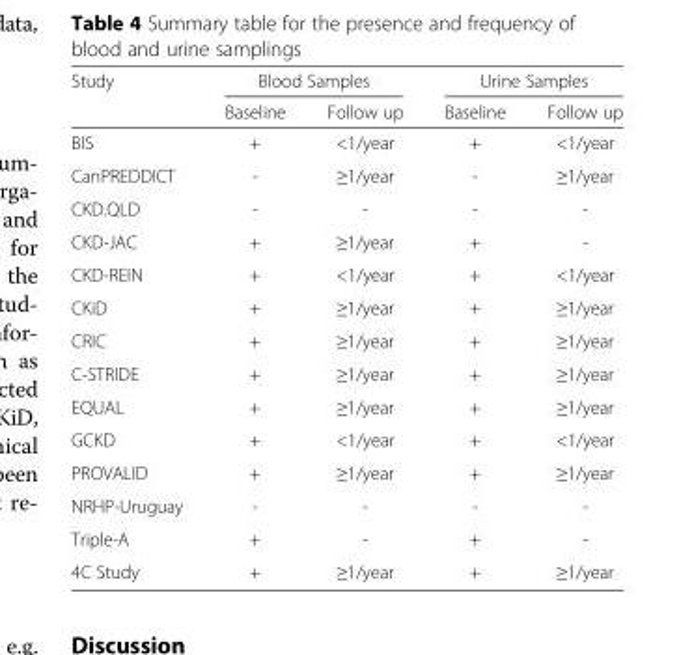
<table><thead><tr><td rowspan="2">Study</td><td colspan="2">Blood Samples</td><td colspan="2">Urine Samples</td></tr><tr><td>Baseline</td><td>Follow up</td><td>Baseline</td><td>Follow up</td></tr></thead><tbody><tr><td>BIS</td><td>+</td><td>&lt;1/year</td><td>+</td><td>&lt;1/year</td></tr><tr><td>CanPREDDICT</td><td>-</td><td>≥1/year</td><td>-</td><td>≥1/year</td></tr><tr><td>CKD.QLD</td><td>-</td><td>-</td><td>-</td><td>-</td></tr><tr><td>CKD-JAC</td><td>+</td><td>≥1/year</td><td>+</td><td>-</td></tr><tr><td>CKD-REIN</td><td>+</td><td>&lt;1/year</td><td>+</td><td>&lt;1/year</td></tr><tr><td>CKiD</td><td>+</td><td>≥1/year</td><td>+</td><td>≥1/year</td></tr><tr><td>CRIC</td><td>+</td><td>≥1/year</td><td>+</td><td>≥1/year</td></tr><tr><td>C-STRIDE</td><td>+</td><td>≥1/year</td><td>+</td><td>≥1/year</td></tr><tr><td>EQUAL</td><td>+</td><td>≥1/year</td><td>+</td><td>≥1/year</td></tr><tr><td>GCKD</td><td>+</td><td>&lt;1/year</td><td>+</td><td>&lt;1/year</td></tr><tr><td>PROVALID</td><td>+</td><td>≥1/year</td><td>+</td><td>≥1/year</td></tr><tr><td>NRHP-Uruguay</td><td>-</td><td>-</td><td>-</td><td>-</td></tr><tr><td>Triple-A</td><td>+</td><td>-</td><td>+</td><td>-</td></tr><tr><td>4C Study</td><td>+</td><td>≥1/year</td><td>+</td><td>≥1/year</td></tr></tbody></table>